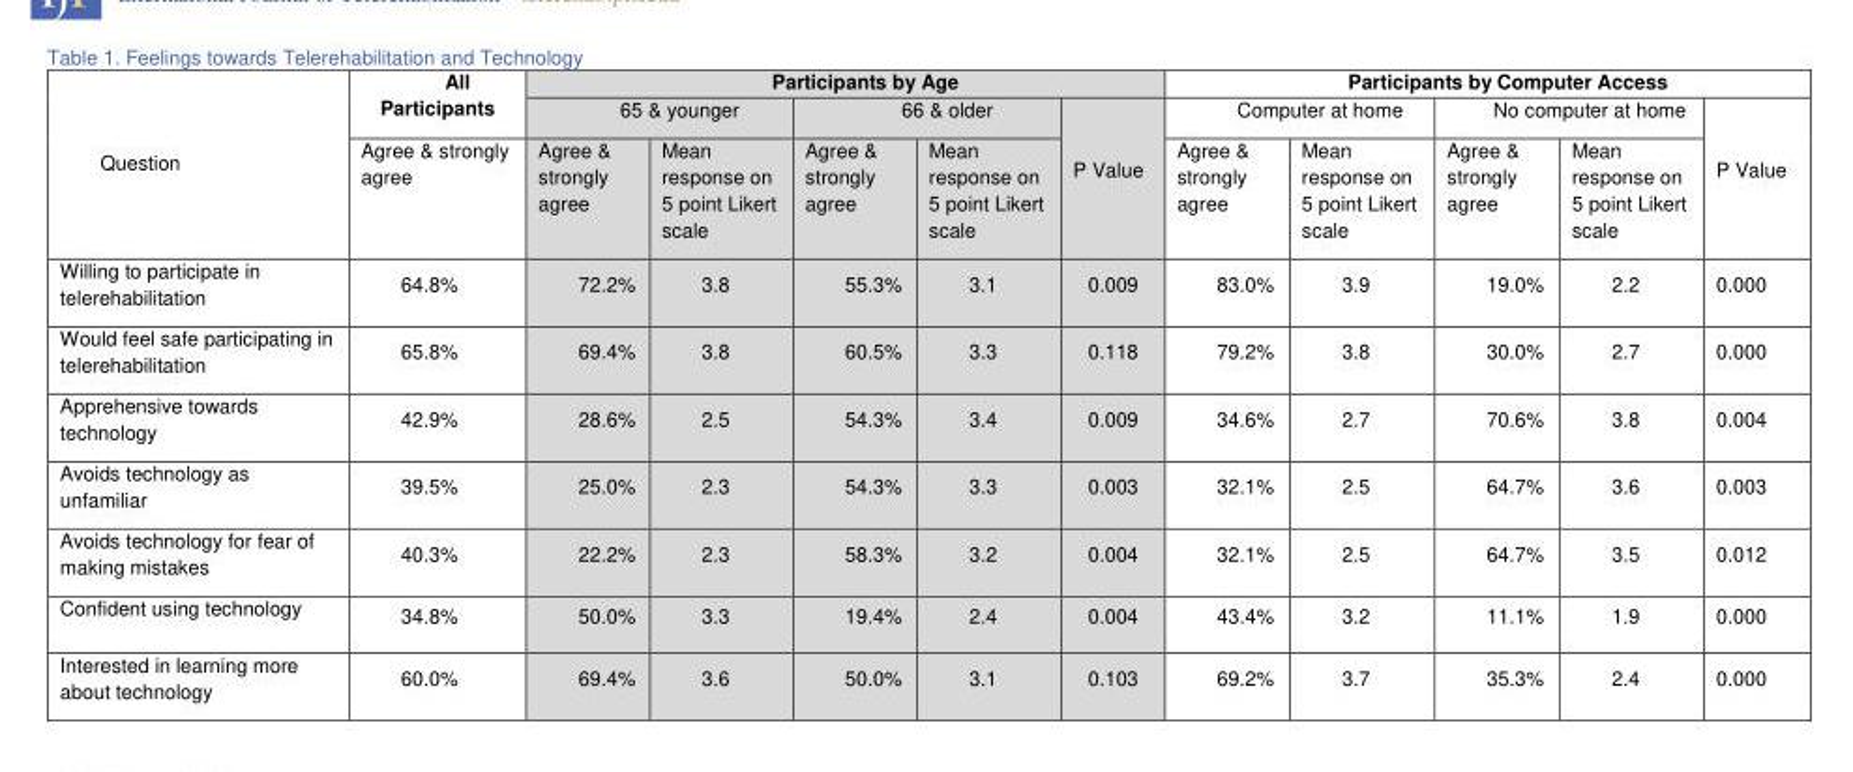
<table><thead><tr><td rowspan="3">Question</td><td rowspan="3">All Participants Agree &amp; strongly agree</td><td colspan="5">Participants by Age</td><td colspan="5">Participants by Computer Access</td></tr><tr><td colspan="2">65 &amp; younger</td><td colspan="2">66 &amp; older</td><td rowspan="2">P Value</td><td colspan="2">Computer at home</td><td colspan="2">No computer at home</td><td rowspan="2">P Value</td></tr><tr><td>Agree &amp; strongly agree</td><td>Mean response on 5 point Likert scale</td><td>Agree &amp; strongly agree</td><td>Mean response on 5 point Likert scale</td><td>Agree &amp; strongly agree</td><td>Mean response on 5 point Likert scale</td><td>Agree &amp; strongly agree</td><td>Mean response on 5 point Likert scale</td></tr></thead><tbody><tr><td>Willing to participate in telerehabilitation</td><td>64.8%</td><td>72.2%</td><td>3.8</td><td>55.3%</td><td>3.1</td><td>0.009</td><td>83.0%</td><td>3.9</td><td>19.0%</td><td>2.2</td><td>0.000</td></tr><tr><td>Would feel safe participating in telerehabilitation</td><td>65.8%</td><td>69.4%</td><td>3.8</td><td>60.5%</td><td>3.3</td><td>0.118</td><td>79.2%</td><td>3.8</td><td>30.0%</td><td>2.7</td><td>0.000</td></tr><tr><td>Apprehensive towards technology</td><td>42.9%</td><td>28.6%</td><td>2.5</td><td>54.3%</td><td>3.4</td><td>0.009</td><td>34.6%</td><td>2.7</td><td>70.6%</td><td>3.8</td><td>0.004</td></tr><tr><td>Avoids technology as unfamiliar</td><td>39.5%</td><td>25.0%</td><td>2.3</td><td>54.3%</td><td>3.3</td><td>0.003</td><td>32.1%</td><td>2.5</td><td>64.7%</td><td>3.6</td><td>0.003</td></tr><tr><td>Avoids technology for fear of making mistakes</td><td>40.3%</td><td>22.2%</td><td>2.3</td><td>58.3%</td><td>3.2</td><td>0.004</td><td>32.1%</td><td>2.5</td><td>64.7%</td><td>3.5</td><td>0.012</td></tr><tr><td>Confident using technology</td><td>34.8%</td><td>50.0%</td><td>3.3</td><td>19.4%</td><td>2.4</td><td>0.004</td><td>43.4%</td><td>3.2</td><td>11.1%</td><td>1.9</td><td>0.000</td></tr><tr><td>Interested in learning more about technology</td><td>60.0%</td><td>69.4%</td><td>3.6</td><td>50.0%</td><td>3.1</td><td>0.103</td><td>69.2%</td><td>3.7</td><td>35.3%</td><td>2.4</td><td>0.000</td></tr></tbody></table>